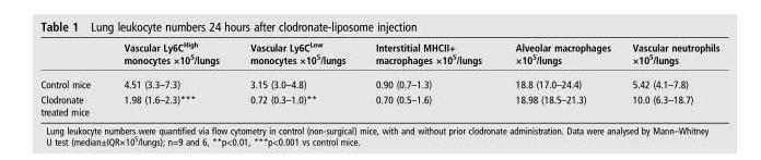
<table><thead><tr><td></td><td>Vascular Ly6C<sup>High</sup> monocytes ×10<sup>5</sup>/lungs</td><td>Vascular Ly6C<sup>Low</sup> monocytes ×10<sup>5</sup>/lungs</td><td>Interstitial MHCII+ macrophages ×10<sup>5</sup>/lungs</td><td>Alveolar macrophages ×10<sup>5</sup>/lungs</td><td>Vascular neutrophils ×10<sup>5</sup>/lungs</td></tr></thead><tbody><tr><td>Control mice</td><td>4.51 (3.3–7.3)</td><td>3.15 (3.0–4.8)</td><td>0.90 (0.7–1.3)</td><td>18.8 (17.0–24.4)</td><td>5.42 (4.1–7.8)</td></tr><tr><td>Clodronate treated mice</td><td>1.98 (1.6–2.3)***</td><td>0.72 (0.3–1.0)**</td><td>0.70 (0.5–1.6)</td><td>18.98 (18.5–21.3)</td><td>10.0 (6.3–18.7)</td></tr></tbody></table>